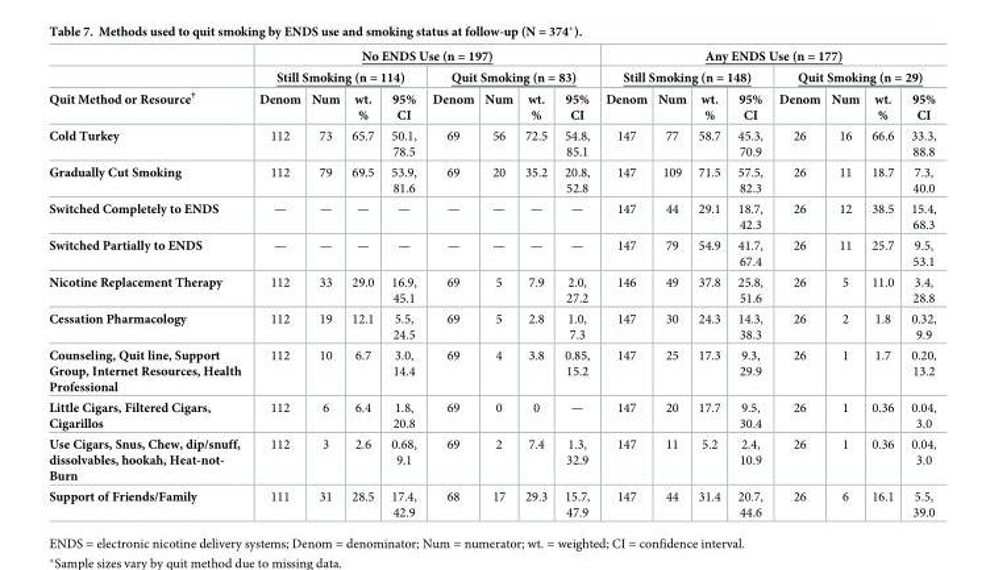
<table><thead><tr><td rowspan="3">Quit Method or Resource<sup>†</sup></td><td colspan="8">No ENDS Use (n = 197)</td><td colspan="8">Any ENDS Use (n = 177)</td></tr><tr><td colspan="4">Still Smoking (n = 114)</td><td colspan="4">Quit Smoking (n = 83)</td><td colspan="4">Still Smoking (n = 148)</td><td colspan="4">Quit Smoking (n = 29)</td></tr><tr><td>Denom</td><td>Num</td><td>wt. %</td><td>95% CI</td><td>Denom</td><td>Num</td><td>wt. %</td><td>95% CI</td><td>Denom</td><td>Num</td><td>wt. %</td><td>95% CI</td><td>Denom</td><td>Num</td><td>wt. %</td><td>95% CI</td></tr></thead><tbody><tr><td>Cold Turkey</td><td>112</td><td>73</td><td>65.7</td><td>50.1, 78.5</td><td>69</td><td>56</td><td>72.5</td><td>54.8, 85.1</td><td>147</td><td>77</td><td>58.7</td><td>45.3, 70.9</td><td>26</td><td>16</td><td>66.6</td><td>33.3, 88.8</td></tr><tr><td>Gradually Cut Smoking</td><td>112</td><td>79</td><td>69.5</td><td>53.9, 81.6</td><td>69</td><td>20</td><td>35.2</td><td>20.8, 52.8</td><td>147</td><td>109</td><td>71.5</td><td>57.5, 82.3</td><td>26</td><td>11</td><td>18.7</td><td>7.3, 40.0</td></tr><tr><td>Switched Completely to ENDS</td><td>—</td><td>—</td><td>—</td><td>—</td><td>—</td><td>—</td><td>—</td><td>—</td><td>147</td><td>44</td><td>29.1</td><td>18.7, 42.3</td><td>26</td><td>12</td><td>38.5</td><td>15.4, 68.3</td></tr><tr><td>Switched Partially to ENDS</td><td>—</td><td>—</td><td>—</td><td>—</td><td>—</td><td>—</td><td>—</td><td>—</td><td>147</td><td>79</td><td>54.9</td><td>41.7, 67.4</td><td>26</td><td>11</td><td>25.7</td><td>9.5, 53.1</td></tr><tr><td>Nicotine Replacement Therapy</td><td>112</td><td>33</td><td>29.0</td><td>16.9, 45.1</td><td>69</td><td>5</td><td>7.9</td><td>2.0, 27.2</td><td>146</td><td>49</td><td>37.8</td><td>25.8, 51.6</td><td>26</td><td>5</td><td>11.0</td><td>3.4, 28.8</td></tr><tr><td>Cessation Pharmacology</td><td>112</td><td>19</td><td>12.1</td><td>5.5, 24.5</td><td>69</td><td>5</td><td>2.8</td><td>1.0, 7.3</td><td>147</td><td>30</td><td>24.3</td><td>14.3, 38.3</td><td>26</td><td>2</td><td>1.8</td><td>0.32, 9.9</td></tr><tr><td>Counseling, Quit line, Support Group, Internet Resources, Health Professional</td><td>112</td><td>10</td><td>6.7</td><td>3.0, 14.4</td><td>69</td><td>4</td><td>3.8</td><td>0.85, 15.2</td><td>147</td><td>25</td><td>17.3</td><td>9.3, 29.9</td><td>26</td><td>1</td><td>1.7</td><td>0.20, 13.2</td></tr><tr><td>Little Cigars, Filtered Cigars, Cigarillos</td><td>112</td><td>6</td><td>6.4</td><td>1.8, 20.8</td><td>69</td><td>0</td><td>0</td><td>—</td><td>147</td><td>20</td><td>17.7</td><td>9.5, 30.4</td><td>26</td><td>1</td><td>0.36</td><td>0.04, 3.0</td></tr><tr><td>Use Cigars, Snus, Chew, dip/snuff, dissolvables, hookah, Heat-not- Burn</td><td>112</td><td>3</td><td>2.6</td><td>0.68, 9.1</td><td>69</td><td>2</td><td>7.4</td><td>1.3, 32.9</td><td>147</td><td>11</td><td>5.2</td><td>2.4, 10.9</td><td>26</td><td>1</td><td>0.36</td><td>0.04, 3.0</td></tr><tr><td>Support of Friends/Family</td><td>111</td><td>31</td><td>28.5</td><td>17.4, 42.9</td><td>68</td><td>17</td><td>29.3</td><td>15.7, 47.9</td><td>147</td><td>44</td><td>31.4</td><td>20.7, 44.6</td><td>26</td><td>6</td><td>16.1</td><td>5.5, 39.0</td></tr></tbody></table>